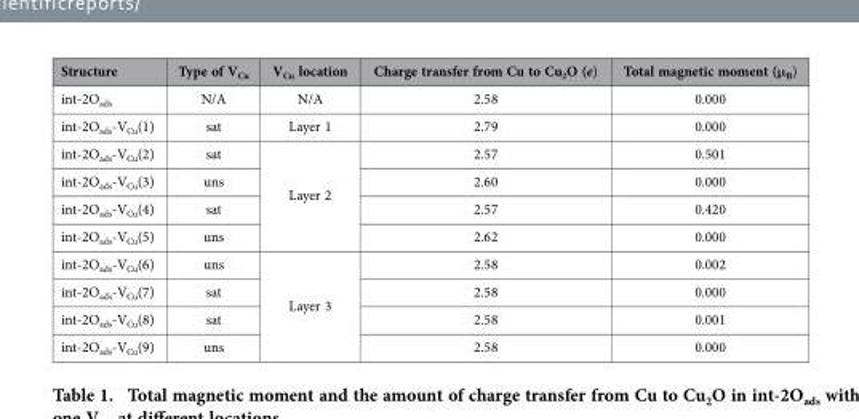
<table><thead><tr><td>Structure</td><td>Type of V<sub>Cu</sub></td><td>V<sub>Cu</sub> location</td><td>Charge transfer from Cu to Cu<sub>2</sub>O (e)</td><td>Total magnetic moment (μ<sub>B</sub>)</td></tr></thead><tbody><tr><td>int-2O<sub>ads</sub></td><td>N/A</td><td>N/A</td><td>2.58</td><td>0.000</td></tr><tr><td>int-2O<sub>ads</sub>-V<sub>Cu</sub>(1)</td><td>sat</td><td>Layer 1</td><td>2.79</td><td>0.000</td></tr><tr><td>int-2O<sub>ads</sub>-V<sub>Cu</sub>(2)</td><td>sat</td><td rowspan="4">Layer 2</td><td>2.57</td><td>0.501</td></tr><tr><td>int-2O<sub>ads</sub>-V<sub>Cu</sub>(3)</td><td>uns</td><td>2.60</td><td>0.000</td></tr><tr><td>int-2O<sub>ads</sub>-V<sub>Cu</sub>(4)</td><td>sat</td><td>2.57</td><td>0.420</td></tr><tr><td>int-2O<sub>ads</sub>-V<sub>Cu</sub>(5)</td><td>uns</td><td>2.62</td><td>0.000</td></tr><tr><td>int-2O<sub>ads</sub>-V<sub>Cu</sub>(6)</td><td>uns</td><td rowspan="4">Layer 3</td><td>2.58</td><td>0.002</td></tr><tr><td>int-2O<sub>ads</sub>-V<sub>Cu</sub>(7)</td><td>sat</td><td>2.58</td><td>0.000</td></tr><tr><td>int-2O<sub>ads</sub>-V<sub>Cu</sub>(8)</td><td>sat</td><td>2.58</td><td>0.001</td></tr><tr><td>int-2O<sub>ads</sub>-V<sub>Cu</sub>(9)</td><td>uns</td><td>2.58</td><td>0.000</td></tr></tbody></table>